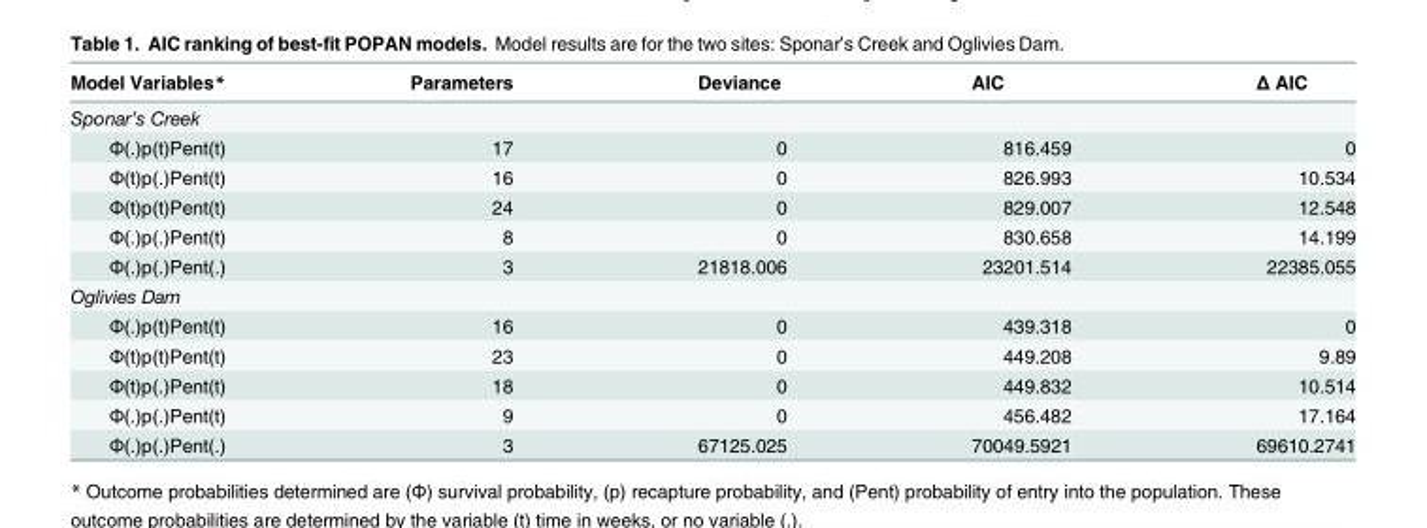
<table><thead><tr><td>Model Variables*</td><td>Parameters</td><td>Deviance</td><td>AIC</td><td>Δ AIC</td></tr></thead><tbody><tr><td colspan="5">Sponar’s Creek</td></tr><tr><td>Φ(.)p(t)Pent(t)</td><td>17</td><td>0</td><td>816.459</td><td>0</td></tr><tr><td>Φ(t)p(.)Pent(t)</td><td>16</td><td>0</td><td>826.993</td><td>10.534</td></tr><tr><td>Φ(t)p(t)Pent(t)</td><td>24</td><td>0</td><td>829.007</td><td>12.548</td></tr><tr><td>Φ(.)p(.)Pent(t)</td><td>8</td><td>0</td><td>830.658</td><td>14.199</td></tr><tr><td>Φ(.)p(.)Pent(.)</td><td>3</td><td>21818.006</td><td>23201.514</td><td>22385.055</td></tr><tr><td colspan="5">Oglivies Dam</td></tr><tr><td>Φ(.)p(t)Pent(t)</td><td>16</td><td>0</td><td>439.318</td><td>0</td></tr><tr><td>Φ(t)p(t)Pent(t)</td><td>23</td><td>0</td><td>449.208</td><td>9.89</td></tr><tr><td>Φ(t)p(.)Pent(t)</td><td>18</td><td>0</td><td>449.832</td><td>10.514</td></tr><tr><td>Φ(.)p(.)Pent(t)</td><td>9</td><td>0</td><td>456.482</td><td>17.164</td></tr><tr><td>Φ(.)p(.)Pent(.)</td><td>3</td><td>67125.025</td><td>70049.5921</td><td>69610.2741</td></tr></tbody></table>